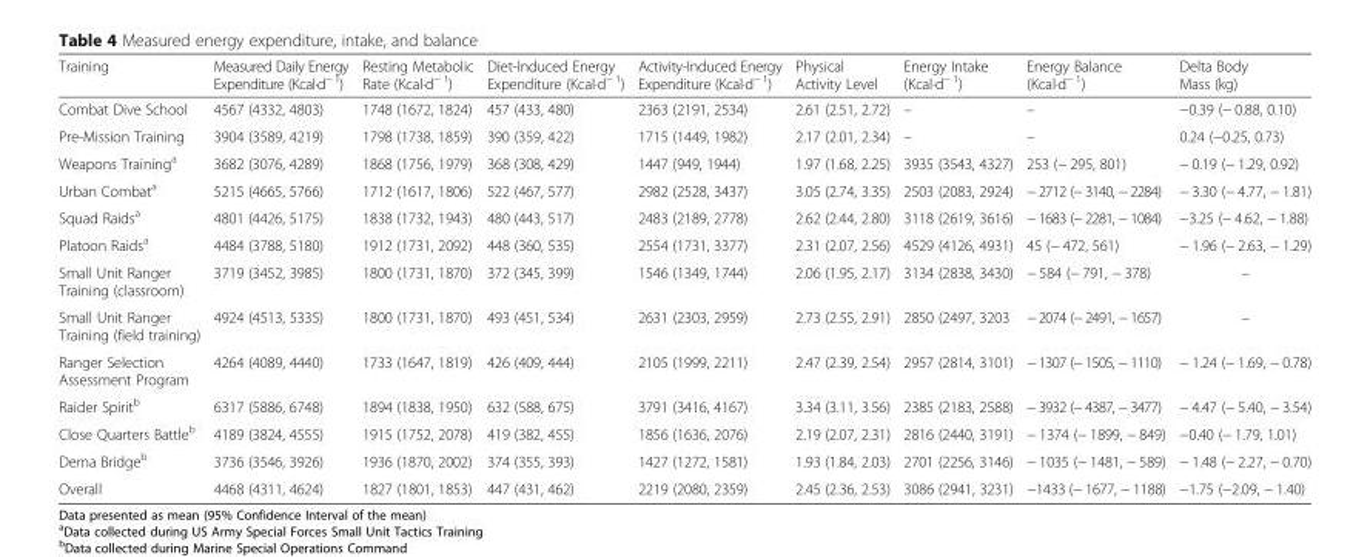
<table><thead><tr><td>Training</td><td>Measured Daily Energy Expenditure (Kcal·d<sup>− 1</sup>)</td><td>Resting Metabolic Rate (Kcal·d<sup>− 1</sup>)</td><td>Diet-Induced Energy Expenditure (Kcal·d<sup>− 1</sup>)</td><td>Activity-Induced Energy Expenditure (Kcal·d<sup>− 1</sup>)</td><td>Physical Activity Level</td><td>Energy Intake (Kcal·d<sup>− 1</sup>)</td><td>Energy Balance (Kcal·d<sup>− 1</sup>)</td><td>Delta Body Mass (kg)</td></tr></thead><tbody><tr><td>Combat Dive School</td><td>4567 (4332, 4803)</td><td>1748 (1672, 1824)</td><td>457 (433, 480)</td><td>2363 (2191, 2534)</td><td>2.61 (2.51, 2.72)</td><td>–</td><td>–</td><td>−0.39 (− 0.88, 0.10)</td></tr><tr><td>Pre-Mission Training</td><td>3904 (3589, 4219)</td><td>1798 (1738, 1859)</td><td>390 (359, 422)</td><td>1715 (1449, 1982)</td><td>2.17 (2.01, 2.34)</td><td>–</td><td>–</td><td>0.24 (−0.25, 0.73)</td></tr><tr><td>Weapons Training<sup>a</sup></td><td>3682 (3076, 4289)</td><td>1868 (1756, 1979)</td><td>368 (308, 429)</td><td>1447 (949, 1944)</td><td>1.97 (1.68, 2.25)</td><td>3935 (3543, 4327)</td><td>253 (− 295, 801)</td><td>− 0.19 (− 1.29, 0.92)</td></tr><tr><td>Urban Combat<sup>a</sup></td><td>5215 (4665, 5766)</td><td>1712 (1617, 1806)</td><td>522 (467, 577)</td><td>2982 (2528, 3437)</td><td>3.05 (2.74, 3.35)</td><td>2503 (2083, 2924)</td><td>− 2712 (− 3140, − 2284)</td><td>− 3.30 (− 4.77, − 1.81)</td></tr><tr><td>Squad Raids<sup>a</sup></td><td>4801 (4426, 5175)</td><td>1838 (1732, 1943)</td><td>480 (443, 517)</td><td>2483 (2189, 2778)</td><td>2.62 (2.44, 2.80)</td><td>3118 (2619, 3616)</td><td>− 1683 (− 2281, − 1084)</td><td>−3.25 (− 4.62, − 1.88)</td></tr><tr><td>Platoon Raids<sup>a</sup></td><td>4484 (3788, 5180)</td><td>1912 (1731, 2092)</td><td>448 (360, 535)</td><td>2554 (1731, 3377)</td><td>2.31 (2.07, 2.56)</td><td>4529 (4126, 4931)</td><td>45 (− 472, 561)</td><td>− 1.96 (− 2.63, − 1.29)</td></tr><tr><td>Small Unit Ranger Training (classroom)</td><td>3719 (3452, 3985)</td><td>1800 (1731, 1870)</td><td>372 (345, 399)</td><td>1546 (1349, 1744)</td><td>2.06 (1.95, 2.17)</td><td>3134 (2838, 3430)</td><td>− 584 (− 791, − 378)</td><td>–</td></tr><tr><td>Small Unit Ranger Training (field training)</td><td>4924 (4513, 5335)</td><td>1800 (1731, 1870)</td><td>493 (451, 534)</td><td>2631 (2303, 2959)</td><td>2.73 (2.55, 2.91)</td><td>2850 (2497, 3203</td><td>− 2074 (− 2491, − 1657)</td><td>–</td></tr><tr><td>Ranger Selection Assessment Program</td><td>4264 (4089, 4440)</td><td>1733 (1647, 1819)</td><td>426 (409, 444)</td><td>2105 (1999, 2211)</td><td>2.47 (2.39, 2.54)</td><td>2957 (2814, 3101)</td><td>− 1307 (− 1505, − 1110)</td><td>− 1.24 (− 1.69, − 0.78)</td></tr><tr><td>Raider Spirit<sup>b</sup></td><td>6317 (5886, 6748)</td><td>1894 (1838, 1950)</td><td>632 (588, 675)</td><td>3791 (3416, 4167)</td><td>3.34 (3.11, 3.56)</td><td>2385 (2183, 2588)</td><td>− 3932 (− 4387, − 3477)</td><td>− 4.47 (− 5.40, − 3.54)</td></tr><tr><td>Close Quarters Battle<sup>b</sup></td><td>4189 (3824, 4555)</td><td>1915 (1752, 2078)</td><td>419 (382, 455)</td><td>1856 (1636, 2076)</td><td>2.19 (2.07, 2.31)</td><td>2816 (2440, 3191)</td><td>− 1374 (− 1899, − 849)</td><td>−0.40 (− 1.79, 1.01)</td></tr><tr><td>Derna Bridge<sup>b</sup></td><td>3736 (3546, 3926)</td><td>1936 (1870, 2002)</td><td>374 (355, 393)</td><td>1427 (1272, 1581)</td><td>1.93 (1.84, 2.03)</td><td>2701 (2256, 3146)</td><td>− 1035 (− 1481, − 589)</td><td>− 1.48 (− 2.27, − 0.70)</td></tr><tr><td>Overall</td><td>4468 (4311, 4624)</td><td>1827 (1801, 1853)</td><td>447 (431, 462)</td><td>2219 (2080, 2359)</td><td>2.45 (2.36, 2.53)</td><td>3086 (2941, 3231)</td><td>−1433 (− 1677, − 1188)</td><td>−1.75 (−2.09, − 1.40)</td></tr></tbody></table>